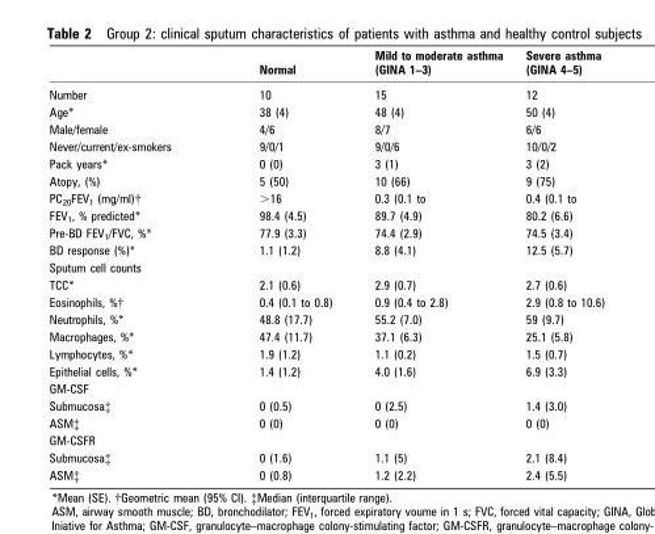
<table><thead><tr><td></td><td>Normal</td><td>Mild to moderate asthma (GINA 1–3)</td><td>Severe asthma (GINA 4–5)</td></tr></thead><tbody><tr><td>Number</td><td>10</td><td>15</td><td>12</td></tr><tr><td>Age*</td><td>38 (4)</td><td>48 (4)</td><td>50 (4)</td></tr><tr><td>Male/female</td><td>4/6</td><td>8/7</td><td>6/6</td></tr><tr><td>Never/current/ex-smokers</td><td>9/0/1</td><td>9/0/6</td><td>10/0/2</td></tr><tr><td>Pack years*</td><td>0 (0)</td><td>3 (1)</td><td>3 (2)</td></tr><tr><td>Atopy, (%)</td><td>5 (50)</td><td>10 (66)</td><td>9 (75)</td></tr><tr><td>PC<sub>20</sub>FEV<sub>1</sub> (mg/ml)†</td><td>&gt;16</td><td>0.3 (0.1 to</td><td>0.4 (0.1 to</td></tr><tr><td>FEV<sub>1</sub>, % predicted*</td><td>98.4 (4.5)</td><td>89.7 (4.9)</td><td>80.2 (6.6)</td></tr><tr><td>Pre-BD FEV<sub>1</sub>/FVC, %*</td><td>77.9 (3.3)</td><td>74.4 (2.9)</td><td>74.5 (3.4)</td></tr><tr><td>BD response (%)*</td><td>1.1 (1.2)</td><td>8.8 (4.1)</td><td>12.5 (5.7)</td></tr><tr><td colspan="4">Sputum cell counts</td></tr><tr><td>TCC*</td><td>2.1 (0.6)</td><td>2.9 (0.7)</td><td>2.7 (0.6)</td></tr><tr><td>Eosinophils, %†</td><td>0.4 (0.1 to 0.8)</td><td>0.9 (0.4 to 2.8)</td><td>2.9 (0.8 to 10.6)</td></tr><tr><td>Neutrophils, %*</td><td>48.8 (17.7)</td><td>55.2 (7.0)</td><td>59 (9.7)</td></tr><tr><td>Macrophages, %*</td><td>47.4 (11.7)</td><td>37.1 (6.3)</td><td>25.1 (5.8)</td></tr><tr><td>Lymphocytes, %*</td><td>1.9 (1.2)</td><td>1.1 (0.2)</td><td>1.5 (0.7)</td></tr><tr><td>Epithelial cells, %*</td><td>1.4 (1.2)</td><td>4.0 (1.6)</td><td>6.9 (3.3)</td></tr><tr><td colspan="4">GM-CSF</td></tr><tr><td>Submucosa‡</td><td>0 (0.5)</td><td>0 (2.5)</td><td>1.4 (3.0)</td></tr><tr><td>ASM‡</td><td>0 (0)</td><td>0 (0)</td><td>0 (0)</td></tr><tr><td colspan="4">GM-CSFR</td></tr><tr><td>Submucosa‡</td><td>0 (1.6)</td><td>1.1 (5)</td><td>2.1 (8.4)</td></tr><tr><td>ASM‡</td><td>0 (0.8)</td><td>1.2 (2.2)</td><td>2.4 (5.5)</td></tr></tbody></table>